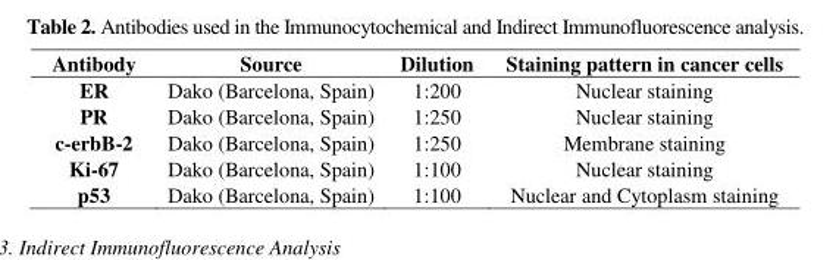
<table><thead><tr><td>Antibody</td><td>Source</td><td>Dilution</td><td>Staining pattern in cancer cells</td></tr></thead><tbody><tr><td>ER</td><td>Dako (Barcelona, Spain)</td><td>1:200</td><td>Nuclear staining</td></tr><tr><td>PR</td><td>Dako (Barcelona, Spain)</td><td>1:250</td><td>Nuclear staining</td></tr><tr><td>c-erbB-2</td><td>Dako (Barcelona, Spain)</td><td>1:250</td><td>Membrane staining</td></tr><tr><td>Ki-67</td><td>Dako (Barcelona, Spain)</td><td>1:100</td><td>Nuclear staining</td></tr><tr><td>p53</td><td>Dako (Barcelona, Spain)</td><td>1:100</td><td>Nuclear and Cytoplasm staining</td></tr></tbody></table>